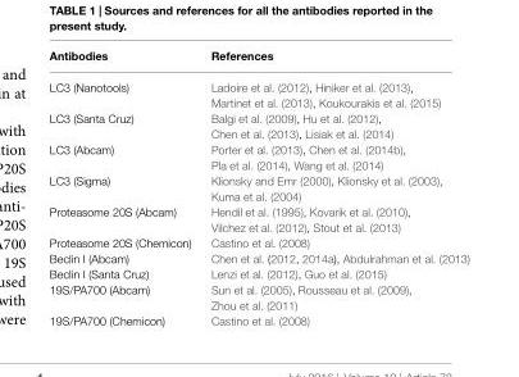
<table><thead><tr><td>Antibodies</td><td>References</td></tr></thead><tbody><tr><td>LC3 (Nanotools)</td><td>Ladoire et al. (2012), Hiniker et al. (2013), Martinet et al. (2013), Koukourakis et al. (2015)</td></tr><tr><td>LC3 (Santa Cruz)</td><td>Balgi et al. (2009), Hu et al. (2012), Chen et al. (2013), Lisiak et al. (2014)</td></tr><tr><td>LC3 (Abcam)</td><td>Porter et al. (2013), Chen et al. (2014b), Pla et al. (2014), Wang et al. (2014)</td></tr><tr><td>LC3 (Sigma)</td><td>Klionsky and Emr (2000), Klionsky et al. (2003), Kuma et al. (2004)</td></tr><tr><td>Proteasome 20S (Abcam)</td><td>Hendil et al. (1995), Kovarik et al. (2010), Vilchez et al. (2012), Stout et al. (2013)</td></tr><tr><td>Proteasome 20S (Chemicon)</td><td>Castino et al. (2008)</td></tr><tr><td>Beclin I (Abcam)</td><td>Chen et al. (2012, 2014a), Abdulrahman et al. (2013)</td></tr><tr><td>Beclin I (Santa Cruz)</td><td>Lenzi et al. (2012), Guo et al. (2015)</td></tr><tr><td>19S/PA700 (Abcam)</td><td>Sun et al. (2005), Rousseau et al. (2009), Zhou et al. (2011)</td></tr><tr><td>19S/PA700 (Chemicon)</td><td>Castino et al. (2008)</td></tr></tbody></table>